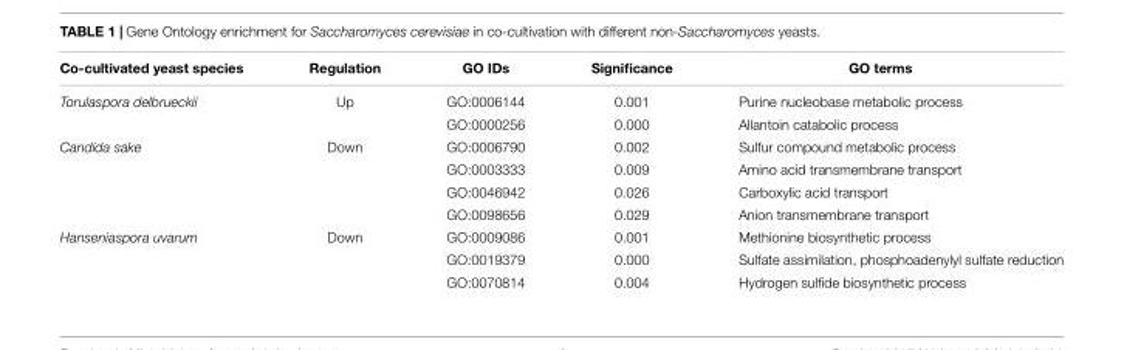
<table><thead><tr><td>Co-cultivated yeast species</td><td>Regulation</td><td>GO IDs</td><td>Significance</td><td>GO terms</td></tr></thead><tbody><tr><td rowspan="2">Torulaspora delbrueckii</td><td>Up</td><td>GO:0006144</td><td>0.001</td><td>Purine nucleobase metabolic process</td></tr><tr><td></td><td>GO:0000256</td><td>0.000</td><td>Allantoin catabolic process</td></tr><tr><td rowspan="4">Candida sake</td><td>Down</td><td>GO:0006790</td><td>0.002</td><td>Sulfur compound metabolic process</td></tr><tr><td></td><td>GO:0003333</td><td>0.009</td><td>Amino acid transmembrane transport</td></tr><tr><td></td><td>GO:0046942</td><td>0.026</td><td>Carboxylic acid transport</td></tr><tr><td></td><td>GO:0098656</td><td>0.029</td><td>Anion transmembrane transport</td></tr><tr><td rowspan="3">Hanseniaspora uvarum</td><td>Down</td><td>GO:0009086</td><td>0.001</td><td>Methionine biosynthetic process</td></tr><tr><td></td><td>GO:0019379</td><td>0.000</td><td>Sulfate assimilation, phosphoadenylyl sulfate reduction</td></tr><tr><td></td><td>GO:0070814</td><td>0.004</td><td>Hydrogen sulfide biosynthetic process</td></tr></tbody></table>